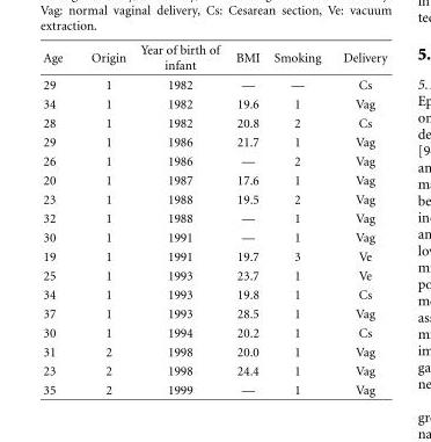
<table><thead><tr><td>Age</td><td>Origin</td><td>Year of birth of infant</td><td>BMI</td><td>Smoking</td><td>Delivery</td></tr></thead><tbody><tr><td>29</td><td>1</td><td>1982</td><td>—</td><td>—</td><td>Cs</td></tr><tr><td>34</td><td>1</td><td>1982</td><td>19.6</td><td>1</td><td>Vag</td></tr><tr><td>28</td><td>1</td><td>1982</td><td>20.8</td><td>2</td><td>Cs</td></tr><tr><td>29</td><td>1</td><td>1986</td><td>21.7</td><td>1</td><td>Vag</td></tr><tr><td>26</td><td>1</td><td>1986</td><td>—</td><td>2</td><td>Vag</td></tr><tr><td>20</td><td>1</td><td>1987</td><td>17.6</td><td>1</td><td>Vag</td></tr><tr><td>23</td><td>1</td><td>1988</td><td>19.5</td><td>2</td><td>Vag</td></tr><tr><td>32</td><td>1</td><td>1988</td><td>—</td><td>1</td><td>Vag</td></tr><tr><td>30</td><td>1</td><td>1991</td><td>—</td><td>1</td><td>Vag</td></tr><tr><td>19</td><td>1</td><td>1991</td><td>19.7</td><td>3</td><td>Ve</td></tr><tr><td>25</td><td>1</td><td>1993</td><td>23.7</td><td>1</td><td>Ve</td></tr><tr><td>34</td><td>1</td><td>1993</td><td>19.8</td><td>1</td><td>Cs</td></tr><tr><td>37</td><td>1</td><td>1993</td><td>28.5</td><td>1</td><td>Vag</td></tr><tr><td>30</td><td>1</td><td>1994</td><td>20.2</td><td>1</td><td>Cs</td></tr><tr><td>31</td><td>2</td><td>1998</td><td>20.0</td><td>1</td><td>Vag</td></tr><tr><td>23</td><td>2</td><td>1998</td><td>24.4</td><td>1</td><td>Vag</td></tr><tr><td>35</td><td>2</td><td>1999</td><td>—</td><td>1</td><td>Vag</td></tr></tbody></table>